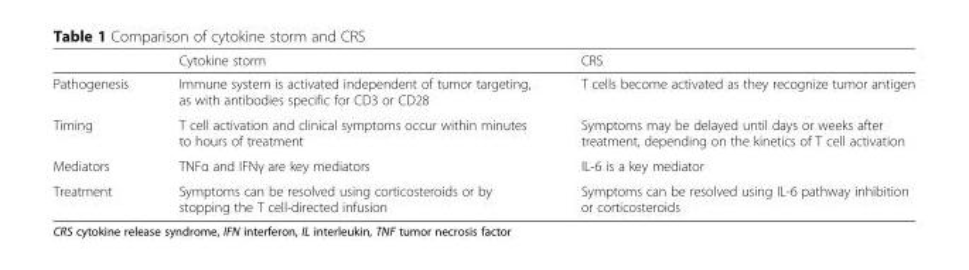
<table><thead><tr><td></td><td>Cytokine storm</td><td>CRS</td></tr></thead><tbody><tr><td>Pathogenesis</td><td>Immune system is activated independent of tumor targeting, as with antibodies specific for CD3 or CD28</td><td>T cells become activated as they recognize tumor antigen</td></tr><tr><td>Timing</td><td>T cell activation and clinical symptoms occur within minutes to hours of treatment</td><td>Symptoms may be delayed until days or weeks after treatment, depending on the kinetics of T cell activation</td></tr><tr><td>Mediators</td><td>TNFα and IFNγ are key mediators</td><td>IL-6 is a key mediator</td></tr><tr><td>Treatment</td><td>Symptoms can be resolved using corticosteroids or by stopping the T cell-directed infusion</td><td>Symptoms can be resolved using IL-6 pathway inhibition or corticosteroids</td></tr></tbody></table>